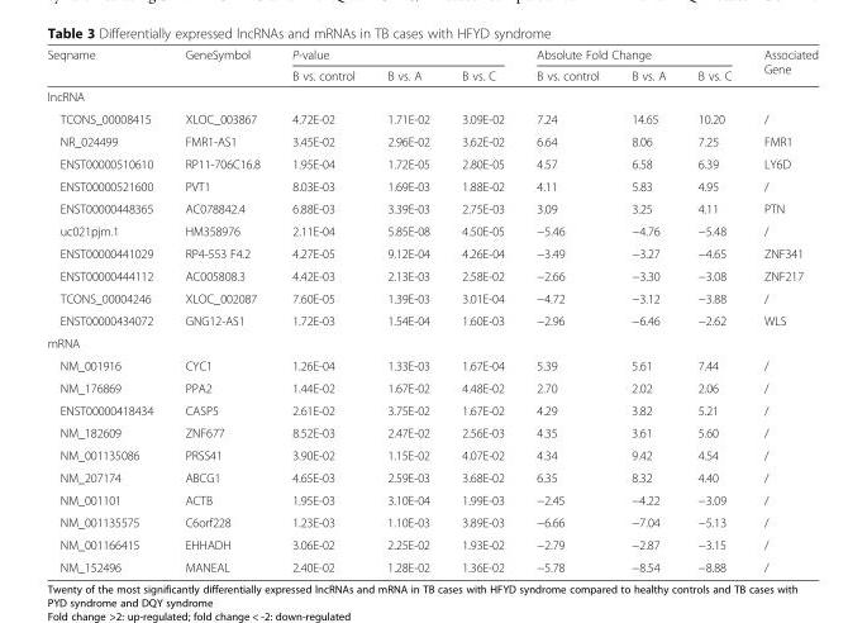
<table><thead><tr><td rowspan="2">Seqname</td><td rowspan="2">GeneSymbol</td><td colspan="3">P-value</td><td colspan="3">Absolute Fold Change</td><td rowspan="2">Associated Gene</td></tr><tr><td>B vs. control</td><td>B vs. A</td><td>B vs. C</td><td>B vs. control</td><td>B vs. A</td><td>B vs. C</td></tr></thead><tbody><tr><td colspan="9">lncRNA</td></tr><tr><td>TCONS_00008415</td><td>XLOC_003867</td><td>4.72E-02</td><td>1.71E-02</td><td>3.09E-02</td><td>7.24</td><td>14.65</td><td>10.20</td><td>/</td></tr><tr><td>NR_024499</td><td>FMR1-AS1</td><td>3.45E-02</td><td>2.96E-02</td><td>3.62E-02</td><td>6.64</td><td>8.06</td><td>7.25</td><td>FMR1</td></tr><tr><td>ENST00000510610</td><td>RP11-706C16.8</td><td>1.95E-04</td><td>1.72E-05</td><td>2.80E-05</td><td>4.57</td><td>6.58</td><td>6.39</td><td>LY6D</td></tr><tr><td>ENST00000521600</td><td>PVT1</td><td>8.03E-03</td><td>1.69E-03</td><td>1.88E-02</td><td>4.11</td><td>5.83</td><td>4.95</td><td>/</td></tr><tr><td>ENST00000448365</td><td>AC078842.4</td><td>6.88E-03</td><td>3.39E-03</td><td>2.75E-03</td><td>3.09</td><td>3.25</td><td>4.11</td><td>PTN</td></tr><tr><td>uc021pjm.1</td><td>HM358976</td><td>2.11E-04</td><td>5.85E-08</td><td>4.50E-05</td><td>−5.46</td><td>−4.76</td><td>−5.48</td><td>/</td></tr><tr><td>ENST00000441029</td><td>RP4-553 F4.2</td><td>4.27E-05</td><td>9.12E-04</td><td>4.26E-04</td><td>−3.49</td><td>−3.27</td><td>−4.65</td><td>ZNF341</td></tr><tr><td>ENST00000444112</td><td>AC005808.3</td><td>4.42E-03</td><td>2.13E-03</td><td>2.58E-02</td><td>−2.66</td><td>−3.30</td><td>−3.08</td><td>ZNF217</td></tr><tr><td>TCONS_00004246</td><td>XLOC_002087</td><td>7.60E-05</td><td>1.39E-03</td><td>3.01E-04</td><td>−4.72</td><td>−3.12</td><td>−3.88</td><td>/</td></tr><tr><td>ENST00000434072</td><td>GNG12-AS1</td><td>1.72E-03</td><td>1.54E-04</td><td>1.60E-03</td><td>−2.96</td><td>−6.46</td><td>−2.62</td><td>WLS</td></tr><tr><td colspan="9">mRNA</td></tr><tr><td>NM_001916</td><td>CYC1</td><td>1.26E-04</td><td>1.33E-03</td><td>1.67E-04</td><td>5.39</td><td>5.61</td><td>7.44</td><td>/</td></tr><tr><td>NM_176869</td><td>PPA2</td><td>1.44E-02</td><td>1.67E-02</td><td>4.48E-02</td><td>2.70</td><td>2.02</td><td>2.06</td><td>/</td></tr><tr><td>ENST00000418434</td><td>CASP5</td><td>2.61E-02</td><td>3.75E-02</td><td>1.67E-02</td><td>4.29</td><td>3.82</td><td>5.21</td><td>/</td></tr><tr><td>NM_182609</td><td>ZNF677</td><td>8.52E-03</td><td>2.47E-02</td><td>2.56E-03</td><td>4.35</td><td>3.61</td><td>5.60</td><td>/</td></tr><tr><td>NM_001135086</td><td>PRSS41</td><td>3.90E-02</td><td>1.15E-02</td><td>4.07E-02</td><td>4.34</td><td>9.42</td><td>4.54</td><td>/</td></tr><tr><td>NM_207174</td><td>ABCG1</td><td>4.65E-03</td><td>2.59E-03</td><td>3.68E-02</td><td>6.35</td><td>8.32</td><td>4.40</td><td>/</td></tr><tr><td>NM_001101</td><td>ACTB</td><td>1.95E-03</td><td>3.10E-04</td><td>1.99E-03</td><td>−2.45</td><td>−4.22</td><td>−3.09</td><td>/</td></tr><tr><td>NM_001135575</td><td>C6orf228</td><td>1.23E-03</td><td>1.10E-03</td><td>3.89E-03</td><td>−6.66</td><td>−7.04</td><td>−5.13</td><td>/</td></tr><tr><td>NM_001166415</td><td>EHHADH</td><td>3.06E-02</td><td>2.25E-02</td><td>1.93E-02</td><td>−2.79</td><td>−2.87</td><td>−3.15</td><td>/</td></tr><tr><td>NM_152496</td><td>MANEAL</td><td>2.40E-02</td><td>1.28E-02</td><td>1.36E-02</td><td>−5.78</td><td>−8.54</td><td>−8.88</td><td>/</td></tr></tbody></table>